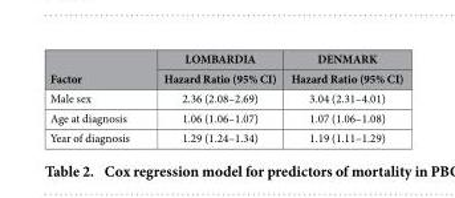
<table><thead><tr><td rowspan="2">Factor</td><td rowspan="2">LOMBARDIA Hazard Ratio (95% CI)</td><td rowspan="2">DENMARK Hazard Ratio (95% CI)</td></tr><tr></tr></thead><tbody><tr><td>Male sex</td><td>2.36 (2.08–2.69)</td><td>3.04 (2.31–4.01)</td></tr><tr><td>Age at diagnosis</td><td>1.06 (1.06–1.07)</td><td>1.07 (1.06–1.08)</td></tr><tr><td>Year of diagnosis</td><td>1.29 (1.24–1.34)</td><td>1.19 (1.11–1.29)</td></tr></tbody></table>